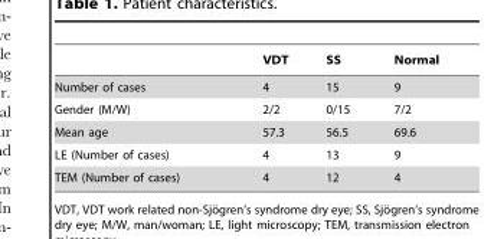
<table><thead><tr><td></td><td>VDT</td><td>SS</td><td>Normal</td></tr></thead><tbody><tr><td>Number of cases</td><td>4</td><td>15</td><td>9</td></tr><tr><td>Gender (M/W)</td><td>2/2</td><td>0/15</td><td>7/2</td></tr><tr><td>Mean age</td><td>57.3</td><td>56.5</td><td>69.6</td></tr><tr><td>LE (Number of cases)</td><td>4</td><td>13</td><td>9</td></tr><tr><td>TEM (Number of cases)</td><td>4</td><td>12</td><td>4</td></tr></tbody></table>